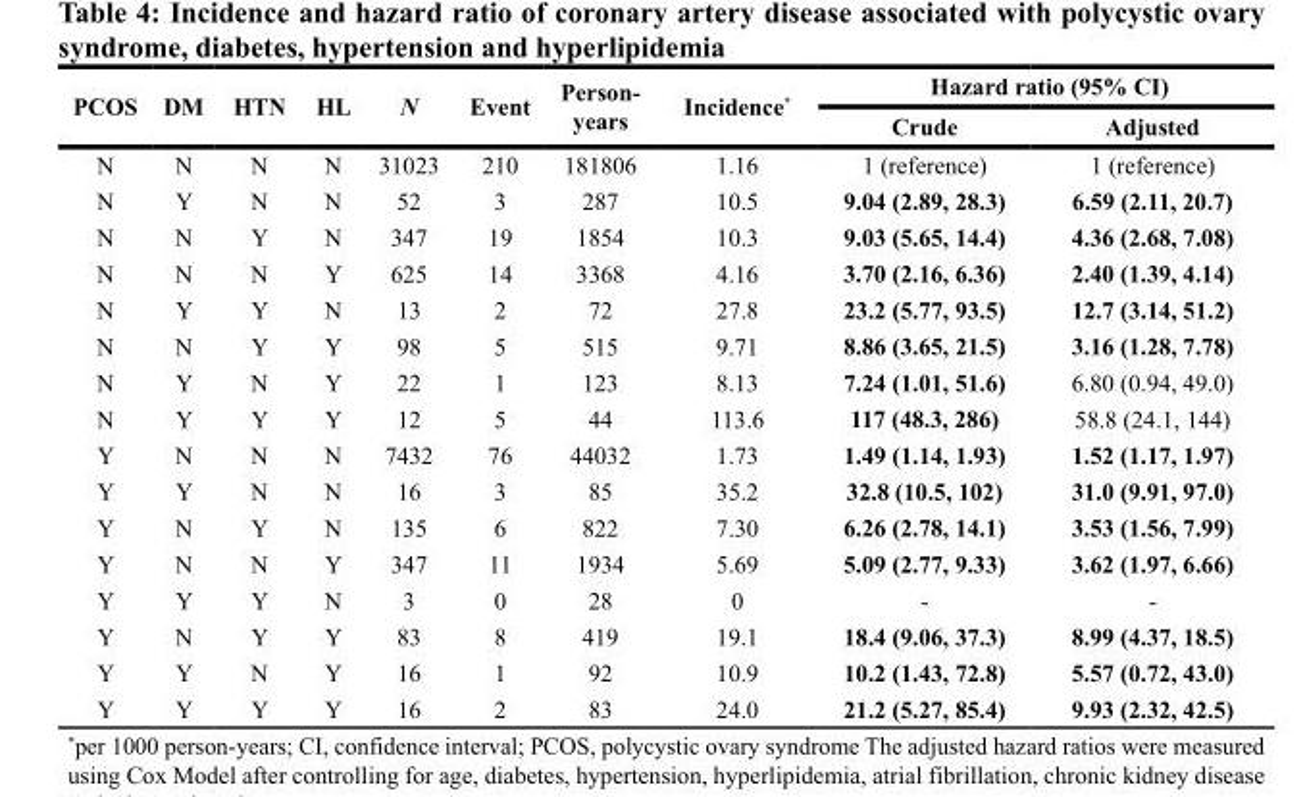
<table><thead><tr><td rowspan="2">PCOS</td><td rowspan="2">DM</td><td rowspan="2">HTN</td><td rowspan="2">HL</td><td rowspan="2">N</td><td rowspan="2">Event</td><td rowspan="2">Person- years</td><td rowspan="2">Incidence*</td><td colspan="2">Hazard ratio (95% CI)</td></tr><tr><td>Crude</td><td>Adjusted</td></tr></thead><tbody><tr><td>N</td><td>N</td><td>N</td><td>N</td><td>31023</td><td>210</td><td>181806</td><td>1.16</td><td>1 (reference)</td><td>1 (reference)</td></tr><tr><td>N</td><td>Y</td><td>N</td><td>N</td><td>52</td><td>3</td><td>287</td><td>10.5</td><td>9.04 (2.89, 28.3)</td><td>6.59 (2.11, 20.7)</td></tr><tr><td>N</td><td>N</td><td>Y</td><td>N</td><td>347</td><td>19</td><td>1854</td><td>10.3</td><td>9.03 (5.65, 14.4)</td><td>4.36 (2.68, 7.08)</td></tr><tr><td>N</td><td>N</td><td>N</td><td>Y</td><td>625</td><td>14</td><td>3368</td><td>4.16</td><td>3.70 (2.16, 6.36)</td><td>2.40 (1.39, 4.14)</td></tr><tr><td>N</td><td>Y</td><td>Y</td><td>N</td><td>13</td><td>2</td><td>72</td><td>27.8</td><td>23.2 (5.77, 93.5)</td><td>12.7 (3.14, 51.2)</td></tr><tr><td>N</td><td>N</td><td>Y</td><td>Y</td><td>98</td><td>5</td><td>515</td><td>9.71</td><td>8.86 (3.65, 21.5)</td><td>3.16 (1.28, 7.78)</td></tr><tr><td>N</td><td>Y</td><td>N</td><td>Y</td><td>22</td><td>1</td><td>123</td><td>8.13</td><td>7.24 (1.01, 51.6)</td><td>6.80 (0.94, 49.0)</td></tr><tr><td>N</td><td>Y</td><td>Y</td><td>Y</td><td>12</td><td>5</td><td>44</td><td>113.6</td><td>117 (48.3, 286)</td><td>58.8 (24.1, 144)</td></tr><tr><td>Y</td><td>N</td><td>N</td><td>N</td><td>7432</td><td>76</td><td>44032</td><td>1.73</td><td>1.49 (1.14, 1.93)</td><td>1.52 (1.17, 1.97)</td></tr><tr><td>Y</td><td>Y</td><td>N</td><td>N</td><td>16</td><td>3</td><td>85</td><td>35.2</td><td>32.8 (10.5, 102)</td><td>31.0 (9.91, 97.0)</td></tr><tr><td>Y</td><td>N</td><td>Y</td><td>N</td><td>135</td><td>6</td><td>822</td><td>7.30</td><td>6.26 (2.78, 14.1)</td><td>3.53 (1.56, 7.99)</td></tr><tr><td>Y</td><td>N</td><td>N</td><td>Y</td><td>347</td><td>11</td><td>1934</td><td>5.69</td><td>5.09 (2.77, 9.33)</td><td>3.62 (1.97, 6.66)</td></tr><tr><td>Y</td><td>Y</td><td>Y</td><td>N</td><td>3</td><td>0</td><td>28</td><td>0</td><td>-</td><td>-</td></tr><tr><td>Y</td><td>N</td><td>Y</td><td>Y</td><td>83</td><td>8</td><td>419</td><td>19.1</td><td>18.4 (9.06, 37.3)</td><td>8.99 (4.37, 18.5)</td></tr><tr><td>Y</td><td>Y</td><td>N</td><td>Y</td><td>16</td><td>1</td><td>92</td><td>10.9</td><td>10.2 (1.43, 72.8)</td><td>5.57 (0.72, 43.0)</td></tr><tr><td>Y</td><td>Y</td><td>Y</td><td>Y</td><td>16</td><td>2</td><td>83</td><td>24.0</td><td>21.2 (5.27, 85.4)</td><td>9.93 (2.32, 42.5)</td></tr></tbody></table>